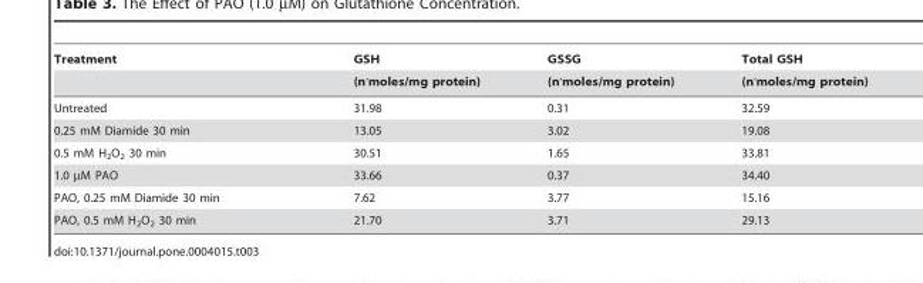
<table><thead><tr><td rowspan="2">Treatment</td><td rowspan="2">GSH (n<sup>.</sup>moles/mg protein)</td><td rowspan="2">GSSG (n<sup>.</sup>moles/mg protein)</td><td rowspan="2">Total GSH (n<sup>.</sup>moles/mg protein)</td></tr><tr></tr></thead><tbody><tr><td>Untreated</td><td>31.98</td><td>0.31</td><td>32.59</td></tr><tr><td>0.25 mM Diamide 30 min</td><td>13.05</td><td>3.02</td><td>19.08</td></tr><tr><td>0.5 mM H<sub>2</sub>O<sub>2</sub> 30 min</td><td>30.51</td><td>1.65</td><td>33.81</td></tr><tr><td>1.0 µM PAO</td><td>33.66</td><td>0.37</td><td>34.40</td></tr><tr><td>PAO, 0.25 mM Diamide 30 min</td><td>7.62</td><td>3.77</td><td>15.16</td></tr><tr><td>PAO, 0.5 mM H<sub>2</sub>O<sub>2</sub> 30 min</td><td>21.70</td><td>3.71</td><td>29.13</td></tr></tbody></table>